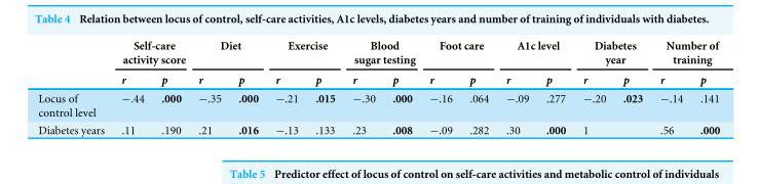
<table><thead><tr><td rowspan="2"></td><td colspan="2">Self-care activity score</td><td colspan="2">Diet</td><td colspan="2">Exercise</td><td colspan="2">Blood sugar testing</td><td colspan="2">Foot care</td><td colspan="2">A1c level</td><td colspan="2">Diabetes year</td><td colspan="2">Number of training</td></tr><tr><td>r</td><td>p</td><td>r</td><td>p</td><td>r</td><td>p</td><td>r</td><td>p</td><td>r</td><td>p</td><td>r</td><td>p</td><td>r</td><td>p</td><td>r</td><td>p</td></tr></thead><tbody><tr><td>Locus of control level</td><td>−.44</td><td>.000</td><td>−.35</td><td>.000</td><td>−.21</td><td>.015</td><td>−.30</td><td>.000</td><td>−.16</td><td>.064</td><td>−.09</td><td>.277</td><td>−.20</td><td>.023</td><td>−.14</td><td>.141</td></tr><tr><td>Diabetes years</td><td>.11</td><td>.190</td><td>.21</td><td>.016</td><td>−.13</td><td>.133</td><td>.23</td><td>.008</td><td>−.09</td><td>.282</td><td>.30</td><td>.000</td><td>1</td><td></td><td>.56</td><td>.000</td></tr></tbody></table>